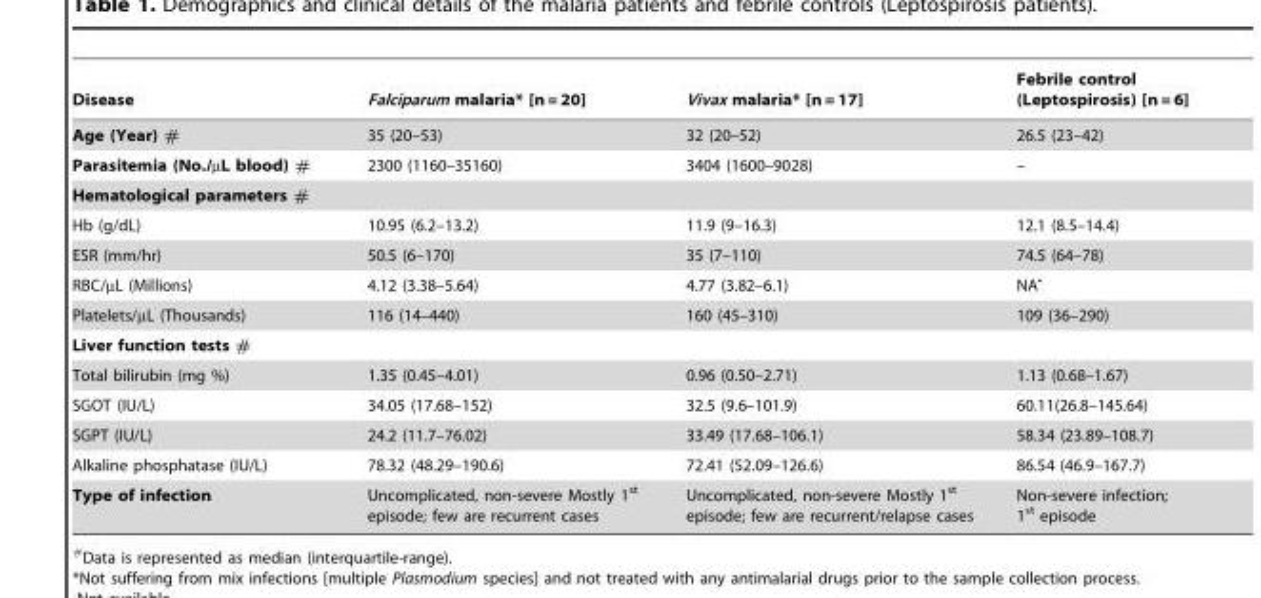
<table><thead><tr><td>Disease</td><td>Falciparum malaria* [n = 20]</td><td>Vivax malaria* [n = 17]</td><td>Febrile control (Leptospirosis) [n = 6]</td></tr></thead><tbody><tr><td>Age (Year) #</td><td>35 (20–53)</td><td>32 (20–52)</td><td>26.5 (23–42)</td></tr><tr><td>Parasitemia (No./µL blood) #</td><td>2300 (1160–35160)</td><td>3404 (1600–9028)</td><td>–</td></tr><tr><td colspan="4">Hematological parameters #</td></tr><tr><td>Hb (g/dL)</td><td>10.95 (6.2–13.2)</td><td>11.9 (9–16.3)</td><td>12.1 (8.5–14.4)</td></tr><tr><td>ESR (mm/hr)</td><td>50.5 (6–170)</td><td>35 (7–110)</td><td>74.5 (64–78)</td></tr><tr><td>RBC/µL (Millions)</td><td>4.12 (3.38–5.64)</td><td>4.77 (3.82–6.1)</td><td>NA<sup>•</sup></td></tr><tr><td>Platelets/µL (Thousands)</td><td>116 (14–440)</td><td>160 (45–310)</td><td>109 (36–290)</td></tr><tr><td colspan="4">Liver function tests #</td></tr><tr><td>Total bilirubin (mg %)</td><td>1.35 (0.45–4.01)</td><td>0.96 (0.50–2.71)</td><td>1.13 (0.68–1.67)</td></tr><tr><td>SGOT (IU/L)</td><td>34.05 (17.68–152)</td><td>32.5 (9.6–101.9)</td><td>60.11(26.8–145.64)</td></tr><tr><td>SGPT (IU/L)</td><td>24.2 (11.7–76.02)</td><td>33.49 (17.68–106.1)</td><td>58.34 (23.89–108.7)</td></tr><tr><td>Alkaline phosphatase (IU/L)</td><td>78.32 (48.29–190.6)</td><td>72.41 (52.09–126.6)</td><td>86.54 (46.9–167.7)</td></tr><tr><td>Type of infection</td><td>Uncomplicated, non-severe Mostly 1<sup>st</sup> episode; few are recurrent cases</td><td>Uncomplicated, non-severe Mostly 1<sup>st</sup> episode; few are recurrent/relapse cases</td><td>Non-severe infection; 1<sup>st</sup> episode</td></tr></tbody></table>